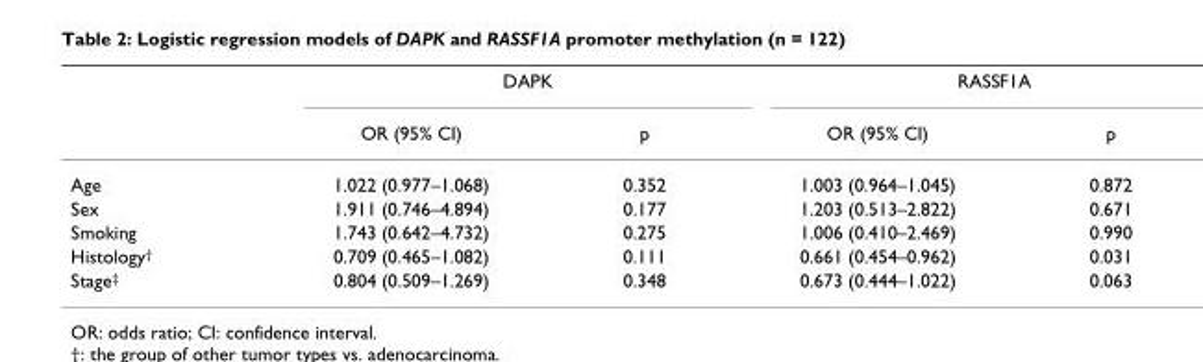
<table><thead><tr><td rowspan="2"></td><td colspan="2">DAPK</td><td colspan="2">RASSF1A</td></tr><tr><td>OR (95% CI)</td><td>p</td><td>OR (95% CI)</td><td>p</td></tr></thead><tbody><tr><td>Age</td><td>1.022 (0.977–1.068)</td><td>0.352</td><td>1.003 (0.964–1.045)</td><td>0.872</td></tr><tr><td>Sex</td><td>1.911 (0.746–4.894)</td><td>0.177</td><td>1.203 (0.513–2.822)</td><td>0.671</td></tr><tr><td>Smoking</td><td>1.743 (0.642–4.732)</td><td>0.275</td><td>1.006 (0.410–2.469)</td><td>0.990</td></tr><tr><td>Histology†</td><td>0.709 (0.465–1.082)</td><td>0.111</td><td>0.661 (0.454–0.962)</td><td>0.031</td></tr><tr><td>Stage‡</td><td>0.804 (0.509–1.269)</td><td>0.348</td><td>0.673 (0.444–1.022)</td><td>0.063</td></tr></tbody></table>